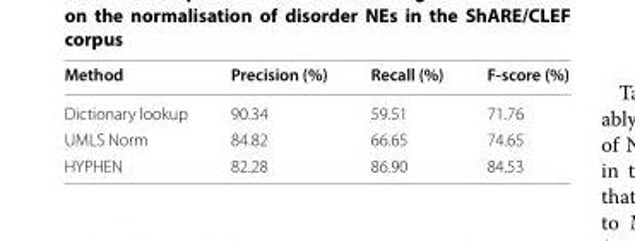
<table><thead><tr><td>Method</td><td>Precision (%)</td><td>Recall (%)</td><td>F‑score (%)</td></tr></thead><tbody><tr><td>Dictionary lookup</td><td>90.34</td><td>59.51</td><td>71.76</td></tr><tr><td>UMLS Norm</td><td>84.82</td><td>66.65</td><td>74.65</td></tr><tr><td>HYPHEN</td><td>82.28</td><td>86.90</td><td>84.53</td></tr></tbody></table>